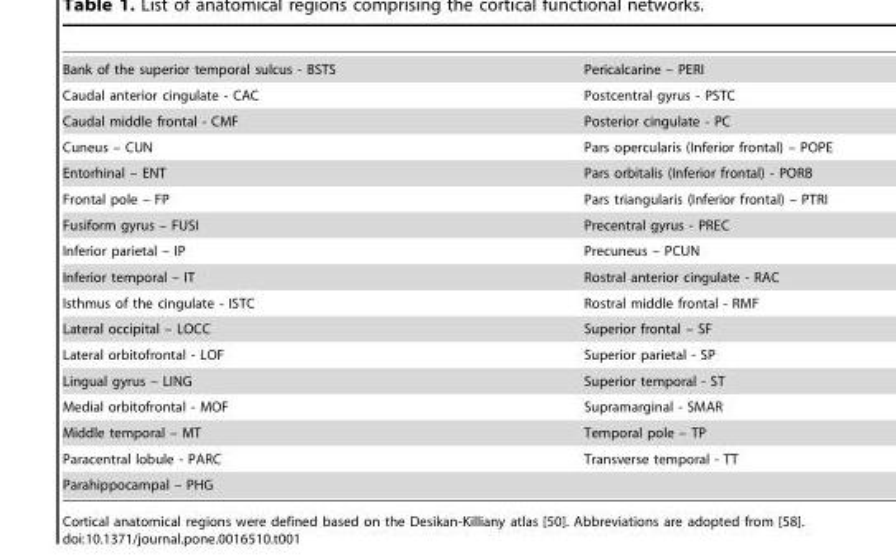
<table><tbody><tr><td>Bank of the superior temporal sulcus - BSTS</td><td>Pericalcarine – PERI</td></tr><tr><td>Caudal anterior cingulate - CAC</td><td>Postcentral gyrus - PSTC</td></tr><tr><td>Caudal middle frontal - CMF</td><td>Posterior cingulate - PC</td></tr><tr><td>Cuneus – CUN</td><td>Pars opercularis (Inferior frontal) – POPE</td></tr><tr><td>Entorhinal – ENT</td><td>Pars orbitalis (Inferior frontal) - PORB</td></tr><tr><td>Frontal pole – FP</td><td>Pars triangularis (Inferior frontal) – PTRI</td></tr><tr><td>Fusiform gyrus – FUSI</td><td>Precentral gyrus - PREC</td></tr><tr><td>Inferior parietal – IP</td><td>Precuneus – PCUN</td></tr><tr><td>Inferior temporal – IT</td><td>Rostral anterior cingulate - RAC</td></tr><tr><td>Isthmus of the cingulate - ISTC</td><td>Rostral middle frontal - RMF</td></tr><tr><td>Lateral occipital – LOCC</td><td>Superior frontal – SF</td></tr><tr><td>Lateral orbitofrontal - LOF</td><td>Superior parietal - SP</td></tr><tr><td>Lingual gyrus – LING</td><td>Superior temporal - ST</td></tr><tr><td>Medial orbitofrontal - MOF</td><td>Supramarginal - SMAR</td></tr><tr><td>Middle temporal – MT</td><td>Temporal pole – TP</td></tr><tr><td>Paracentral lobule - PARC</td><td>Transverse temporal - TT</td></tr><tr><td>Parahippocampal – PHG</td><td></td></tr></tbody></table>